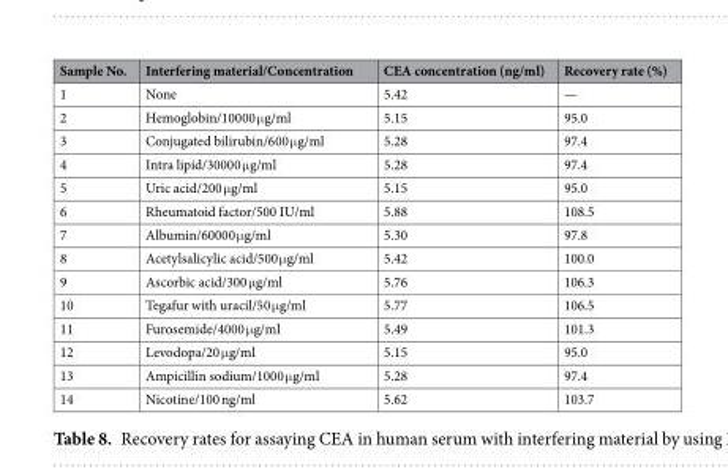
<table><thead><tr><td>Sample No.</td><td>Interfering material/Concentration</td><td>CEA concentration (ng/ml)</td><td>Recovery rate (%)</td></tr></thead><tbody><tr><td>1</td><td>None</td><td>5.42</td><td>—</td></tr><tr><td>2</td><td>Hemoglobin/10000 μg/ml</td><td>5.15</td><td>95.0</td></tr><tr><td>3</td><td>Conjugated bilirubin/600 μg/ml</td><td>5.28</td><td>97.4</td></tr><tr><td>4</td><td>Intra lipid/30000 μg/ml</td><td>5.28</td><td>97.4</td></tr><tr><td>5</td><td>Uric acid/200 μg/ml</td><td>5.15</td><td>95.0</td></tr><tr><td>6</td><td>Rheumatoid factor/500 IU/ml</td><td>5.88</td><td>108.5</td></tr><tr><td>7</td><td>Albumin/60000 μg/ml</td><td>5.30</td><td>97.8</td></tr><tr><td>8</td><td>Acetylsalicylic acid/500 μg/ml</td><td>5.42</td><td>100.0</td></tr><tr><td>9</td><td>Ascorbic acid/300 μg/ml</td><td>5.76</td><td>106.3</td></tr><tr><td>10</td><td>Tegafur with uracil/50 μg/ml</td><td>5.77</td><td>106.5</td></tr><tr><td>11</td><td>Furosemide/4000 μg/ml</td><td>5.49</td><td>101.3</td></tr><tr><td>12</td><td>Levodopa/20 μg/ml</td><td>5.15</td><td>95.0</td></tr><tr><td>13</td><td>Ampicillin sodium/1000 μg/ml</td><td>5.28</td><td>97.4</td></tr><tr><td>14</td><td>Nicotine/100 ng/ml</td><td>5.62</td><td>103.7</td></tr></tbody></table>